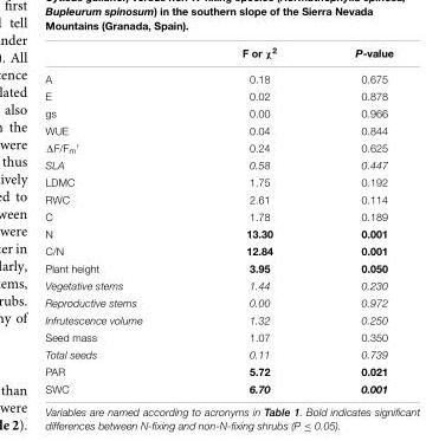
<table><thead><tr><td></td><td>F or χ<sup>2</sup></td><td>P-value</td></tr></thead><tbody><tr><td>A</td><td>0.18</td><td>0.675</td></tr><tr><td>E</td><td>0.02</td><td>0.878</td></tr><tr><td>gs</td><td>0.00</td><td>0.966</td></tr><tr><td>WUE</td><td>0.04</td><td>0.844</td></tr><tr><td>ΔF/F<sub>m</sub>′</td><td>0.24</td><td>0.625</td></tr><tr><td>SLA</td><td>0.58</td><td>0.447</td></tr><tr><td>LDMC</td><td>1.75</td><td>0.192</td></tr><tr><td>RWC</td><td>2.61</td><td>0.114</td></tr><tr><td>C</td><td>1.78</td><td>0.189</td></tr><tr><td>N</td><td>13.30</td><td>0.001</td></tr><tr><td>C/N</td><td>12.84</td><td>0.001</td></tr><tr><td>Plant height</td><td>3.95</td><td>0.050</td></tr><tr><td>Vegetative stems</td><td>1.44</td><td>0.230</td></tr><tr><td>Reproductive stems</td><td>0.00</td><td>0.972</td></tr><tr><td>Infrutescence volume</td><td>1.32</td><td>0.250</td></tr><tr><td>Seed mass</td><td>1.07</td><td>0.350</td></tr><tr><td>Total seeds</td><td>0.11</td><td>0.739</td></tr><tr><td>PAR</td><td>5.72</td><td>0.021</td></tr><tr><td>SWC</td><td>6.70</td><td>0.001</td></tr></tbody></table>